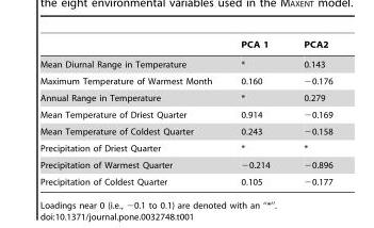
<table><thead><tr><td></td><td>PCA 1</td><td>PCA2</td></tr></thead><tbody><tr><td>Mean Diurnal Range in Temperature</td><td>*</td><td>0.143</td></tr><tr><td>Maximum Temperature of Warmest Month</td><td>0.160</td><td>−0.176</td></tr><tr><td>Annual Range in Temperature</td><td>*</td><td>0.279</td></tr><tr><td>Mean Temperature of Driest Quarter</td><td>0.914</td><td>−0.169</td></tr><tr><td>Mean Temperature of Coldest Quarter</td><td>0.243</td><td>−0.158</td></tr><tr><td>Precipitation of Driest Quarter</td><td>*</td><td>*</td></tr><tr><td>Precipitation of Warmest Quarter</td><td>−0.214</td><td>−0.896</td></tr><tr><td>Precipitation of Coldest Quarter</td><td>0.105</td><td>−0.177</td></tr></tbody></table>